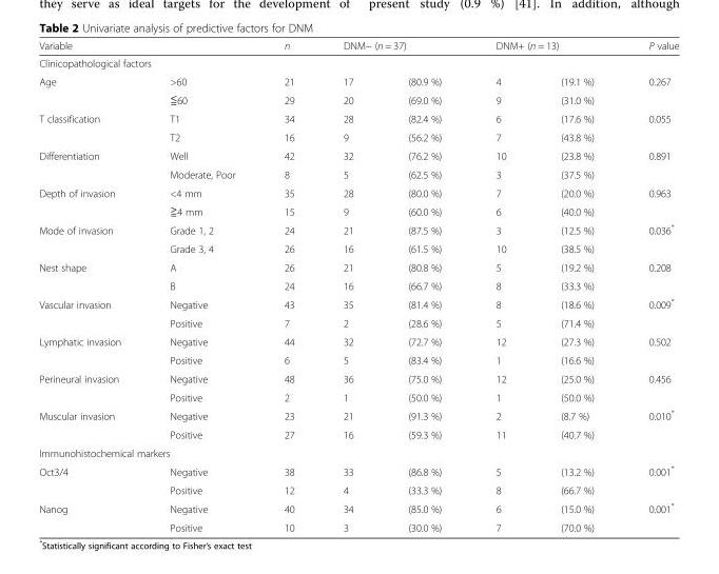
<table><thead><tr><td>Variable</td><td></td><td rowspan="2">n</td><td colspan="2">DNM− (n = 37)</td><td colspan="2">DNM+ (n = 13)</td><td rowspan="2">P value</td></tr><tr><td colspan="2">Clinicopathological factors</td><td></td><td></td><td></td><td></td></tr></thead><tbody><tr><td rowspan="2">Age</td><td>&gt;60</td><td>21</td><td>17</td><td>(80.9 %)</td><td>4</td><td>(19.1 %)</td><td>0.267</td></tr><tr><td>≦60</td><td>29</td><td>20</td><td>(69.0 %)</td><td>9</td><td>(31.0 %)</td><td></td></tr><tr><td rowspan="2">T classification</td><td>T1</td><td>34</td><td>28</td><td>(82.4 %)</td><td>6</td><td>(17.6 %)</td><td>0.055</td></tr><tr><td>T2</td><td>16</td><td>9</td><td>(56.2 %)</td><td>7</td><td>(43.8 %)</td><td></td></tr><tr><td rowspan="2">Differentiation</td><td>Well</td><td>42</td><td>32</td><td>(76.2 %)</td><td>10</td><td>(23.8 %)</td><td>0.891</td></tr><tr><td>Moderate, Poor</td><td>8</td><td>5</td><td>(62.5 %)</td><td>3</td><td>(37.5 %)</td><td></td></tr><tr><td rowspan="2">Depth of invasion</td><td>&lt;4 mm</td><td>35</td><td>28</td><td>(80.0 %)</td><td>7</td><td>(20.0 %)</td><td>0.963</td></tr><tr><td>≧4 mm</td><td>15</td><td>9</td><td>(60.0 %)</td><td>6</td><td>(40.0 %)</td><td></td></tr><tr><td rowspan="2">Mode of invasion</td><td>Grade 1, 2</td><td>24</td><td>21</td><td>(87.5 %)</td><td>3</td><td>(12.5 %)</td><td>0.036*</td></tr><tr><td>Grade 3, 4</td><td>26</td><td>16</td><td>(61.5 %)</td><td>10</td><td>(38.5 %)</td><td></td></tr><tr><td rowspan="2">Nest shape</td><td>A</td><td>26</td><td>21</td><td>(80.8 %)</td><td>5</td><td>(19.2 %)</td><td>0.208</td></tr><tr><td>B</td><td>24</td><td>16</td><td>(66.7 %)</td><td>8</td><td>(33.3 %)</td><td></td></tr><tr><td rowspan="2">Vascular invasion</td><td>Negative</td><td>43</td><td>35</td><td>(81.4 %)</td><td>8</td><td>(18.6 %)</td><td>0.009*</td></tr><tr><td>Positive</td><td>7</td><td>2</td><td>(28.6 %)</td><td>5</td><td>(71.4 %)</td><td></td></tr><tr><td rowspan="2">Lymphatic invasion</td><td>Negative</td><td>44</td><td>32</td><td>(72.7 %)</td><td>12</td><td>(27.3 %)</td><td>0.502</td></tr><tr><td>Positive</td><td>6</td><td>5</td><td>(83.4 %)</td><td>1</td><td>(16.6 %)</td><td></td></tr><tr><td rowspan="2">Perineural invasion</td><td>Negative</td><td>48</td><td>36</td><td>(75.0 %)</td><td>12</td><td>(25.0 %)</td><td>0.456</td></tr><tr><td>Positive</td><td>2</td><td>1</td><td>(50.0 %)</td><td>1</td><td>(50.0 %)</td><td></td></tr><tr><td rowspan="2">Muscular invasion</td><td>Negative</td><td>23</td><td>21</td><td>(91.3 %)</td><td>2</td><td>(8.7 %)</td><td>0.010*</td></tr><tr><td>Positive</td><td>27</td><td>16</td><td>(59.3 %)</td><td>11</td><td>(40.7 %)</td><td></td></tr><tr><td colspan="8">Immunohistochemical markers</td></tr><tr><td rowspan="2">Oct3/4</td><td>Negative</td><td>38</td><td>33</td><td>(86.8 %)</td><td>5</td><td>(13.2 %)</td><td>0.001*</td></tr><tr><td>Positive</td><td>12</td><td>4</td><td>(33.3 %)</td><td>8</td><td>(66.7 %)</td><td></td></tr><tr><td rowspan="2">Nanog</td><td>Negative</td><td>40</td><td>34</td><td>(85.0 %)</td><td>6</td><td>(15.0 %)</td><td>0.001*</td></tr><tr><td>Positive</td><td>10</td><td>3</td><td>(30.0 %)</td><td>7</td><td>(70.0 %)</td><td></td></tr></tbody></table>